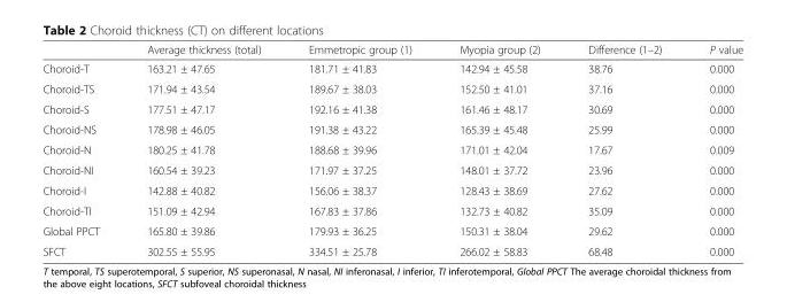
<table><thead><tr><td></td><td>Average thickness (total)</td><td>Emmetropic group (1)</td><td>Myopia group (2)</td><td>Difference (1–2)</td><td>P value</td></tr></thead><tbody><tr><td>Choroid-T</td><td>163.21 ± 47.65</td><td>181.71 ± 41.83</td><td>142.94 ± 45.58</td><td>38.76</td><td>0.000</td></tr><tr><td>Choroid-TS</td><td>171.94 ± 43.54</td><td>189.67 ± 38.03</td><td>152.50 ± 41.01</td><td>37.16</td><td>0.000</td></tr><tr><td>Choroid-S</td><td>177.51 ± 47.17</td><td>192.16 ± 41.38</td><td>161.46 ± 48.17</td><td>30.69</td><td>0.000</td></tr><tr><td>Choroid-NS</td><td>178.98 ± 46.05</td><td>191.38 ± 43.22</td><td>165.39 ± 45.48</td><td>25.99</td><td>0.000</td></tr><tr><td>Choroid-N</td><td>180.25 ± 41.78</td><td>188.68 ± 39.96</td><td>171.01 ± 42.04</td><td>17.67</td><td>0.009</td></tr><tr><td>Choroid-NI</td><td>160.54 ± 39.23</td><td>171.97 ± 37.25</td><td>148.01 ± 37.72</td><td>23.96</td><td>0.000</td></tr><tr><td>Choroid-I</td><td>142.88 ± 40.82</td><td>156.06 ± 38.37</td><td>128.43 ± 38.69</td><td>27.62</td><td>0.000</td></tr><tr><td>Choroid-TI</td><td>151.09 ± 42.94</td><td>167.83 ± 37.86</td><td>132.73 ± 40.82</td><td>35.09</td><td>0.000</td></tr><tr><td>Global PPCT</td><td>165.80 ± 39.86</td><td>179.93 ± 36.25</td><td>150.31 ± 38.04</td><td>29.62</td><td>0.000</td></tr><tr><td>SFCT</td><td>302.55 ± 55.95</td><td>334.51 ± 25.78</td><td>266.02 ± 58.83</td><td>68.48</td><td>0.000</td></tr></tbody></table>